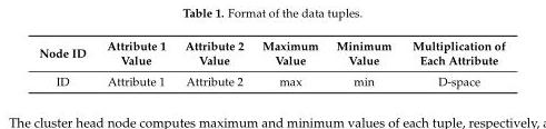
<table><thead><tr><td>Node ID</td><td>Attribute 1 Value</td><td>Attribute 2 Value</td><td>Maximum Value</td><td>Minimum Value</td><td>Multiplication of Each Attribute</td></tr></thead><tbody><tr><td>ID</td><td>Attribute 1</td><td>Attribute 2</td><td>max</td><td>min</td><td>D-space</td></tr></tbody></table>